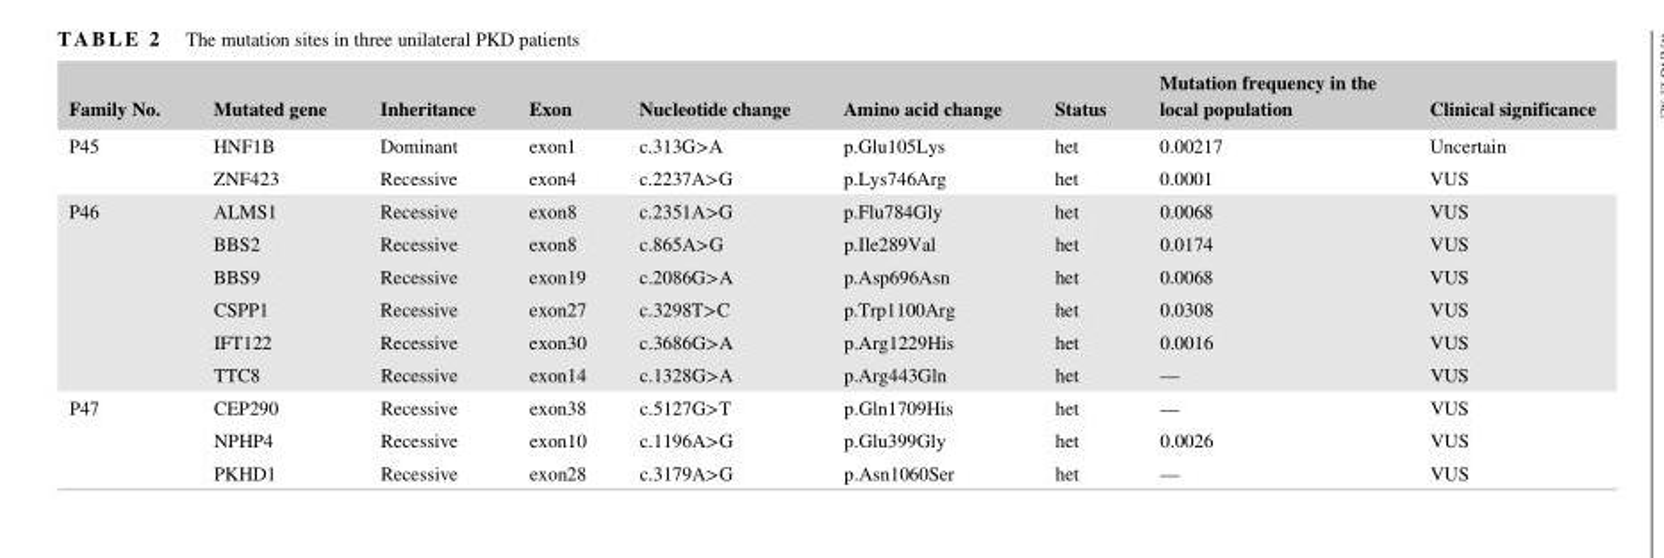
<table><thead><tr><td>Family No.</td><td>Mutated gene</td><td>Inheritance</td><td>Exon</td><td>Nucleotide change</td><td>Amino acid change</td><td>Status</td><td>Mutation frequency in the local population</td><td>Clinical significance</td></tr></thead><tbody><tr><td rowspan="2">P45</td><td>HNF1B</td><td>Dominant</td><td>exon1</td><td>c.313G&gt;A</td><td>p.Glu105Lys</td><td>het</td><td>0.00217</td><td>Uncertain</td></tr><tr><td>ZNF423</td><td>Recessive</td><td>exon4</td><td>c.2237A&gt;G</td><td>p.Lys746Arg</td><td>het</td><td>0.0001</td><td>VUS</td></tr><tr><td rowspan="6">P46</td><td>ALMS1</td><td>Recessive</td><td>exon8</td><td>c.2351A&gt;G</td><td>p.Flu784Gly</td><td>het</td><td>0.0068</td><td>VUS</td></tr><tr><td>BBS2</td><td>Recessive</td><td>exon8</td><td>c.865A&gt;G</td><td>p.Ile289Val</td><td>het</td><td>0.0174</td><td>VUS</td></tr><tr><td>BBS9</td><td>Recessive</td><td>exon19</td><td>c.2086G&gt;A</td><td>p.Asp696Asn</td><td>het</td><td>0.0068</td><td>VUS</td></tr><tr><td>CSPP1</td><td>Recessive</td><td>exon27</td><td>c.3298T&gt;C</td><td>p.Trp1100Arg</td><td>het</td><td>0.0308</td><td>VUS</td></tr><tr><td>IFT122</td><td>Recessive</td><td>exon30</td><td>c.3686G&gt;A</td><td>p.Arg1229His</td><td>het</td><td>0.0016</td><td>VUS</td></tr><tr><td>TTC8</td><td>Recessive</td><td>exon14</td><td>c.1328G&gt;A</td><td>p.Arg443Gln</td><td>het</td><td>—</td><td>VUS</td></tr><tr><td rowspan="3">P47</td><td>CEP290</td><td>Recessive</td><td>exon38</td><td>c.5127G&gt;T</td><td>p.Gln1709His</td><td>het</td><td>—</td><td>VUS</td></tr><tr><td>NPHP4</td><td>Recessive</td><td>exon10</td><td>c.1196A&gt;G</td><td>p.Glu399Gly</td><td>het</td><td>0.0026</td><td>VUS</td></tr><tr><td>PKHD1</td><td>Recessive</td><td>exon28</td><td>c.3179A&gt;G</td><td>p.Asn1060Ser</td><td>het</td><td>—</td><td>VUS</td></tr></tbody></table>